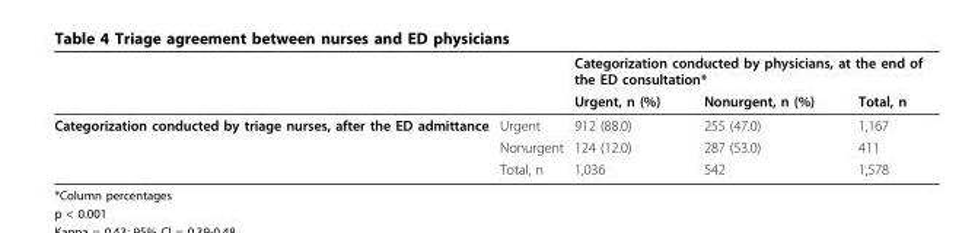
<table><thead><tr><td rowspan="2"></td><td rowspan="2"></td><td colspan="3">Categorization conducted by physicians, at the end of the ED consultation*</td></tr><tr><td>Urgent, n (%)</td><td>Nonurgent, n (%)</td><td>Total, n</td></tr></thead><tbody><tr><td rowspan="3">Categorization conducted by triage nurses, after the ED admittance</td><td>Urgent</td><td>912 (88.0)</td><td>255 (47.0)</td><td>1,167</td></tr><tr><td>Nonurgent</td><td>124 (12.0)</td><td>287 (53.0)</td><td>411</td></tr><tr><td>Total, n</td><td>1,036</td><td>542</td><td>1,578</td></tr></tbody></table>